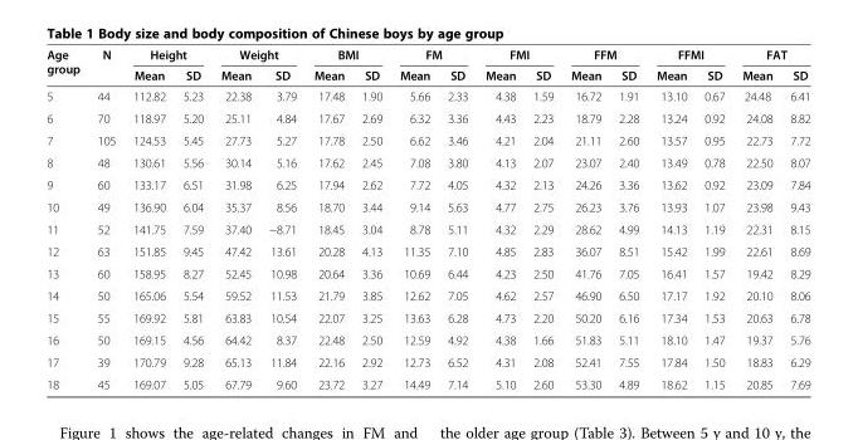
<table><thead><tr><td rowspan="2">Age group</td><td rowspan="2">N</td><td colspan="2">Height</td><td colspan="2">Weight</td><td colspan="2">BMI</td><td colspan="2">FM</td><td colspan="2">FMI</td><td colspan="2">FFM</td><td colspan="2">FFMI</td><td colspan="2">FAT</td></tr><tr><td>Mean</td><td>SD</td><td>Mean</td><td>SD</td><td>Mean</td><td>SD</td><td>Mean</td><td>SD</td><td>Mean</td><td>SD</td><td>Mean</td><td>SD</td><td>Mean</td><td>SD</td><td>Mean</td><td>SD</td></tr></thead><tbody><tr><td>5</td><td>44</td><td>112.82</td><td>5.23</td><td>22.38</td><td>3.79</td><td>17.48</td><td>1.90</td><td>5.66</td><td>2.33</td><td>4.38</td><td>1.59</td><td>16.72</td><td>1.91</td><td>13.10</td><td>0.67</td><td>24.48</td><td>6.41</td></tr><tr><td>6</td><td>70</td><td>118.97</td><td>5.20</td><td>25.11</td><td>4.84</td><td>17.67</td><td>2.69</td><td>6.32</td><td>3.36</td><td>4.43</td><td>2.23</td><td>18.79</td><td>2.28</td><td>13.24</td><td>0.92</td><td>24.08</td><td>8.82</td></tr><tr><td>7</td><td>105</td><td>124.53</td><td>5.45</td><td>27.73</td><td>5.27</td><td>17.78</td><td>2.50</td><td>6.62</td><td>3.46</td><td>4.21</td><td>2.04</td><td>21.11</td><td>2.60</td><td>13.57</td><td>0.95</td><td>22.73</td><td>7.72</td></tr><tr><td>8</td><td>48</td><td>130.61</td><td>5.56</td><td>30.14</td><td>5.16</td><td>17.62</td><td>2.45</td><td>7.08</td><td>3.80</td><td>4.13</td><td>2.07</td><td>23.07</td><td>2.40</td><td>13.49</td><td>0.78</td><td>22.50</td><td>8.07</td></tr><tr><td>9</td><td>60</td><td>133.17</td><td>6.51</td><td>31.98</td><td>6.25</td><td>17.94</td><td>2.62</td><td>7.72</td><td>4.05</td><td>4.32</td><td>2.13</td><td>24.26</td><td>3.36</td><td>13.62</td><td>0.92</td><td>23.09</td><td>7.84</td></tr><tr><td>10</td><td>49</td><td>136.90</td><td>6.04</td><td>35.37</td><td>8.56</td><td>18.70</td><td>3.44</td><td>9.14</td><td>5.63</td><td>4.77</td><td>2.75</td><td>26.23</td><td>3.76</td><td>13.93</td><td>1.07</td><td>23.98</td><td>9.43</td></tr><tr><td>11</td><td>52</td><td>141.75</td><td>7.59</td><td>37.40</td><td>−8.71</td><td>18.45</td><td>3.04</td><td>8.78</td><td>5.11</td><td>4.32</td><td>2.29</td><td>28.62</td><td>4.99</td><td>14.13</td><td>1.19</td><td>22.31</td><td>8.15</td></tr><tr><td>12</td><td>63</td><td>151.85</td><td>9.45</td><td>47.42</td><td>13.61</td><td>20.28</td><td>4.13</td><td>11.35</td><td>7.10</td><td>4.85</td><td>2.83</td><td>36.07</td><td>8.51</td><td>15.42</td><td>1.99</td><td>22.61</td><td>8.69</td></tr><tr><td>13</td><td>60</td><td>158.95</td><td>8.27</td><td>52.45</td><td>10.98</td><td>20.64</td><td>3.36</td><td>10.69</td><td>6.44</td><td>4.23</td><td>2.50</td><td>41.76</td><td>7.05</td><td>16.41</td><td>1.57</td><td>19.42</td><td>8.29</td></tr><tr><td>14</td><td>50</td><td>165.06</td><td>5.54</td><td>59.52</td><td>11.53</td><td>21.79</td><td>3.85</td><td>12.62</td><td>7.05</td><td>4.62</td><td>2.57</td><td>46.90</td><td>6.50</td><td>17.17</td><td>1.92</td><td>20.10</td><td>8.06</td></tr><tr><td>15</td><td>55</td><td>169.92</td><td>5.81</td><td>63.83</td><td>10.54</td><td>22.07</td><td>3.25</td><td>13.63</td><td>6.28</td><td>4.73</td><td>2.20</td><td>50.20</td><td>6.16</td><td>17.34</td><td>1.53</td><td>20.63</td><td>6.78</td></tr><tr><td>16</td><td>50</td><td>169.15</td><td>4.56</td><td>64.42</td><td>8.37</td><td>22.48</td><td>2.50</td><td>12.59</td><td>4.92</td><td>4.38</td><td>1.66</td><td>51.83</td><td>5.11</td><td>18.10</td><td>1.47</td><td>19.37</td><td>5.76</td></tr><tr><td>17</td><td>39</td><td>170.79</td><td>9.28</td><td>65.13</td><td>11.84</td><td>22.16</td><td>2.92</td><td>12.73</td><td>6.52</td><td>4.31</td><td>2.08</td><td>52.41</td><td>7.55</td><td>17.84</td><td>1.50</td><td>18.83</td><td>6.29</td></tr><tr><td>18</td><td>45</td><td>169.07</td><td>5.05</td><td>67.79</td><td>9.60</td><td>23.72</td><td>3.27</td><td>14.49</td><td>7.14</td><td>5.10</td><td>2.60</td><td>53.30</td><td>4.89</td><td>18.62</td><td>1.15</td><td>20.85</td><td>7.69</td></tr></tbody></table>